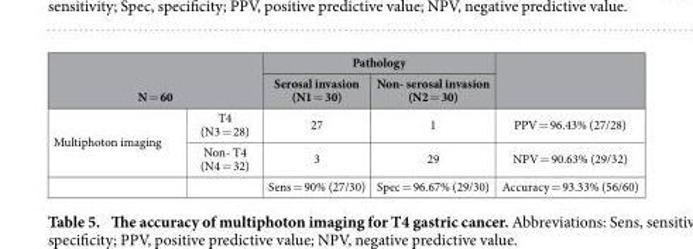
<table><thead><tr><td></td><td></td><td colspan="2">Pathology</td><td rowspan="2"></td></tr><tr><td colspan="2">N = 60</td><td>Serosal invasion (N1 = 30)</td><td>Non- serosal invasion (N2 = 30)</td></tr></thead><tbody><tr><td rowspan="3">Multiphoton imaging</td><td>T4 (N3 = 28)</td><td>27</td><td>1</td><td>PPV = 96.43% (27/28)</td></tr><tr><td>Non- T4 (N4 = 32)</td><td>3</td><td>29</td><td>NPV = 90.63% (29/32)</td></tr><tr><td></td><td>Sens = 90% (27/30)</td><td>Spec = 96.67% (29/30)</td><td>Accuracy = 93.33% (56/60)</td></tr></tbody></table>